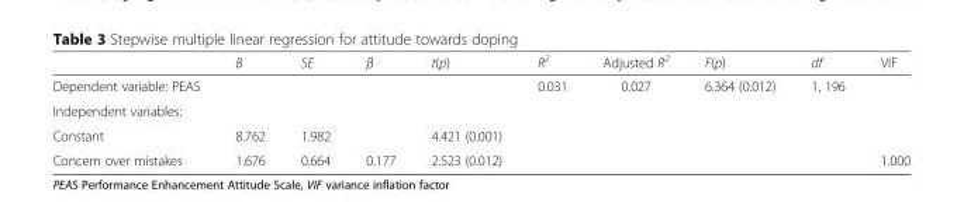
<table><thead><tr><td></td><td>B</td><td>SE</td><td>β</td><td>t(p)</td><td>R<sup>2</sup></td><td>Adjusted R<sup>2</sup></td><td>F(p)</td><td>df</td><td>VIF</td></tr></thead><tbody><tr><td>Dependent variable: PEAS</td><td></td><td></td><td></td><td></td><td>0.031</td><td>0.027</td><td>6.364 (0.012)</td><td>1, 196</td><td></td></tr><tr><td colspan="10">Independent variables:</td></tr><tr><td>Constant</td><td>8.762</td><td>1.982</td><td></td><td>4.421 (0.001)</td><td></td><td></td><td></td><td></td><td></td></tr><tr><td>Concern over mistakes</td><td>1.676</td><td>0.664</td><td>0.177</td><td>2.523 (0.012)</td><td></td><td></td><td></td><td></td><td>1.000</td></tr></tbody></table>